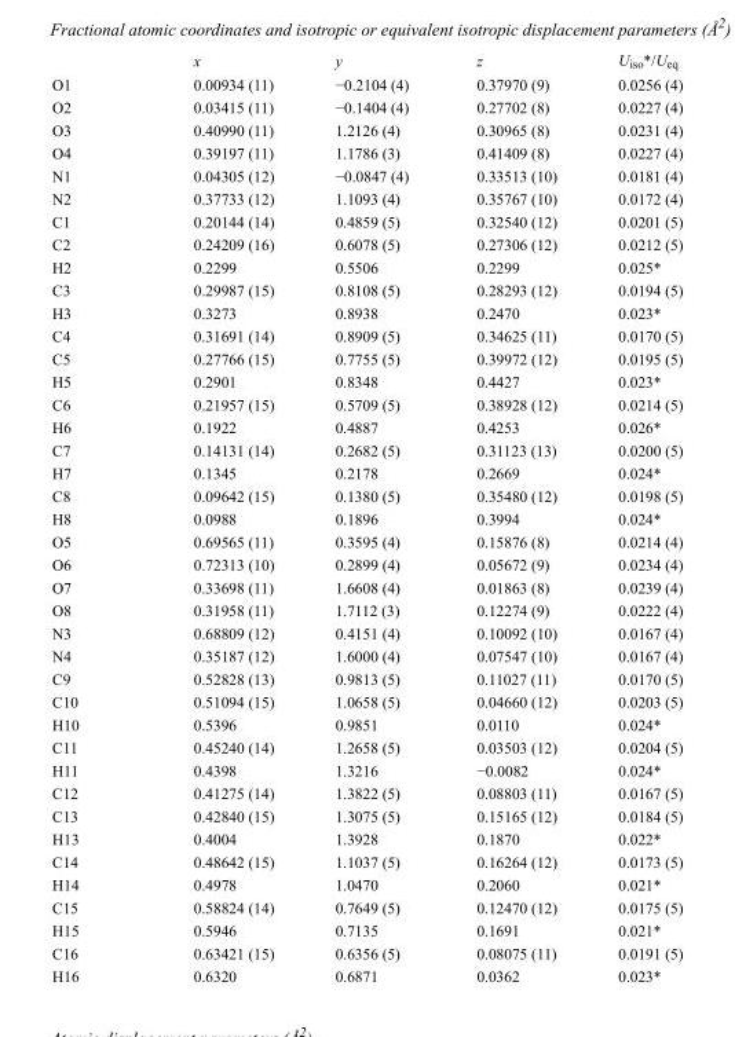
<table><thead><tr><td></td><td>x</td><td>y</td><td>z</td><td>U<sub>iso</sub>*/U<sub>eq</sub></td></tr></thead><tbody><tr><td>O1</td><td>0.00934 (11)</td><td>−0.2104 (4)</td><td>0.37970 (9)</td><td>0.0256 (4)</td></tr><tr><td>O2</td><td>0.03415 (11)</td><td>−0.1404 (4)</td><td>0.27702 (8)</td><td>0.0227 (4)</td></tr><tr><td>O3</td><td>0.40990 (11)</td><td>1.2126 (4)</td><td>0.30965 (8)</td><td>0.0231 (4)</td></tr><tr><td>O4</td><td>0.39197 (11)</td><td>1.1786 (3)</td><td>0.41409 (8)</td><td>0.0227 (4)</td></tr><tr><td>N1</td><td>0.04305 (12)</td><td>−0.0847 (4)</td><td>0.33513 (10)</td><td>0.0181 (4)</td></tr><tr><td>N2</td><td>0.37733 (12)</td><td>1.1093 (4)</td><td>0.35767 (10)</td><td>0.0172 (4)</td></tr><tr><td>C1</td><td>0.20144 (14)</td><td>0.4859 (5)</td><td>0.32540 (12)</td><td>0.0201 (5)</td></tr><tr><td>C2</td><td>0.24209 (16)</td><td>0.6078 (5)</td><td>0.27306 (12)</td><td>0.0212 (5)</td></tr><tr><td>H2</td><td>0.2299</td><td>0.5506</td><td>0.2299</td><td>0.025*</td></tr><tr><td>C3</td><td>0.29987 (15)</td><td>0.8108 (5)</td><td>0.28293 (12)</td><td>0.0194 (5)</td></tr><tr><td>H3</td><td>0.3273</td><td>0.8938</td><td>0.2470</td><td>0.023*</td></tr><tr><td>C4</td><td>0.31691 (14)</td><td>0.8909 (5)</td><td>0.34625 (11)</td><td>0.0170 (5)</td></tr><tr><td>C5</td><td>0.27766 (15)</td><td>0.7755 (5)</td><td>0.39972 (12)</td><td>0.0195 (5)</td></tr><tr><td>H5</td><td>0.2901</td><td>0.8348</td><td>0.4427</td><td>0.023*</td></tr><tr><td>C6</td><td>0.21957 (15)</td><td>0.5709 (5)</td><td>0.38928 (12)</td><td>0.0214 (5)</td></tr><tr><td>H6</td><td>0.1922</td><td>0.4887</td><td>0.4253</td><td>0.026*</td></tr><tr><td>C7</td><td>0.14131 (14)</td><td>0.2682 (5)</td><td>0.31123 (13)</td><td>0.0200 (5)</td></tr><tr><td>H7</td><td>0.1345</td><td>0.2178</td><td>0.2669</td><td>0.024*</td></tr><tr><td>C8</td><td>0.09642 (15)</td><td>0.1380 (5)</td><td>0.35480 (12)</td><td>0.0198 (5)</td></tr><tr><td>H8</td><td>0.0988</td><td>0.1896</td><td>0.3994</td><td>0.024*</td></tr><tr><td>O5</td><td>0.69565 (11)</td><td>0.3595 (4)</td><td>0.15876 (8)</td><td>0.0214 (4)</td></tr><tr><td>O6</td><td>0.72313 (10)</td><td>0.2899 (4)</td><td>0.05672 (9)</td><td>0.0234 (4)</td></tr><tr><td>O7</td><td>0.33698 (11)</td><td>1.6608 (4)</td><td>0.01863 (8)</td><td>0.0239 (4)</td></tr><tr><td>O8</td><td>0.31958 (11)</td><td>1.7112 (3)</td><td>0.12274 (9)</td><td>0.0222 (4)</td></tr><tr><td>N3</td><td>0.68809 (12)</td><td>0.4151 (4)</td><td>0.10092 (10)</td><td>0.0167 (4)</td></tr><tr><td>N4</td><td>0.35187 (12)</td><td>1.6000 (4)</td><td>0.07547 (10)</td><td>0.0167 (4)</td></tr><tr><td>C9</td><td>0.52828 (13)</td><td>0.9813 (5)</td><td>0.11027 (11)</td><td>0.0170 (5)</td></tr><tr><td>C10</td><td>0.51094 (15)</td><td>1.0658 (5)</td><td>0.04660 (12)</td><td>0.0203 (5)</td></tr><tr><td>H10</td><td>0.5396</td><td>0.9851</td><td>0.0110</td><td>0.024*</td></tr><tr><td>C11</td><td>0.45240 (14)</td><td>1.2658 (5)</td><td>0.03503 (12)</td><td>0.0204 (5)</td></tr><tr><td>H11</td><td>0.4398</td><td>1.3216</td><td>−0.0082</td><td>0.024*</td></tr><tr><td>C12</td><td>0.41275 (14)</td><td>1.3822 (5)</td><td>0.08803 (11)</td><td>0.0167 (5)</td></tr><tr><td>C13</td><td>0.42840 (15)</td><td>1.3075 (5)</td><td>0.15165 (12)</td><td>0.0184 (5)</td></tr><tr><td>H13</td><td>0.4004</td><td>1.3928</td><td>0.1870</td><td>0.022*</td></tr><tr><td>C14</td><td>0.48642 (15)</td><td>1.1037 (5)</td><td>0.16264 (12)</td><td>0.0173 (5)</td></tr><tr><td>H14</td><td>0.4978</td><td>1.0470</td><td>0.2060</td><td>0.021*</td></tr><tr><td>C15</td><td>0.58824 (14)</td><td>0.7649 (5)</td><td>0.12470 (12)</td><td>0.0175 (5)</td></tr><tr><td>H15</td><td>0.5946</td><td>0.7135</td><td>0.1691</td><td>0.021*</td></tr><tr><td>C16</td><td>0.63421 (15)</td><td>0.6356 (5)</td><td>0.08075 (11)</td><td>0.0191 (5)</td></tr><tr><td>H16</td><td>0.6320</td><td>0.6871</td><td>0.0362</td><td>0.023*</td></tr></tbody></table>